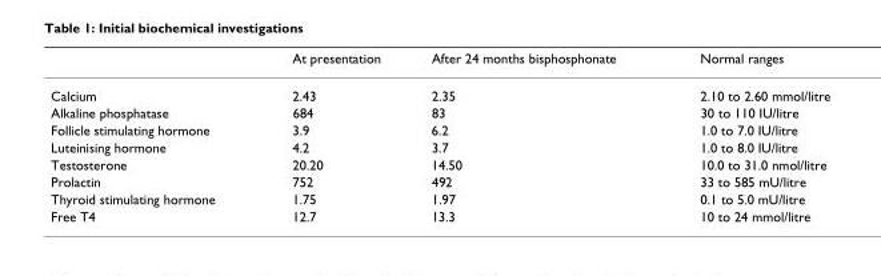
<table><thead><tr><td></td><td>At presentation</td><td>After 24 months bisphosphonate</td><td>Normal ranges</td></tr></thead><tbody><tr><td>Calcium</td><td>2.43</td><td>2.35</td><td>2.10 to 2.60 mmol/litre</td></tr><tr><td>Alkaline phosphatase</td><td>684</td><td>83</td><td>30 to 110 IU/litre</td></tr><tr><td>Follicle stimulating hormone</td><td>3.9</td><td>6.2</td><td>1.0 to 7.0 IU/litre</td></tr><tr><td>Luteinising hormone</td><td>4.2</td><td>3.7</td><td>1.0 to 8.0 IU/litre</td></tr><tr><td>Testosterone</td><td>20.20</td><td>14.50</td><td>10.0 to 31.0 nmol/litre</td></tr><tr><td>Prolactin</td><td>752</td><td>492</td><td>33 to 585 mU/litre</td></tr><tr><td>Thyroid stimulating hormone</td><td>1.75</td><td>1.97</td><td>0.1 to 5.0 mU/litre</td></tr><tr><td>Free T4</td><td>12.7</td><td>13.3</td><td>10 to 24 mmol/litre</td></tr></tbody></table>